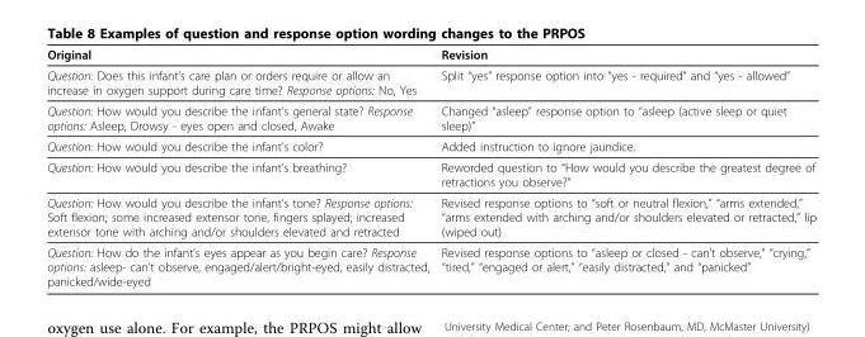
<table><thead><tr><td>Original</td><td>Revision</td></tr></thead><tbody><tr><td>Question: Does this infant’s care plan or orders require or allow an increase in oxygen support during care time? Response options: No, Yes</td><td>Split “yes” response option into “yes - required” and “yes - allowed”</td></tr><tr><td>Question: How would you describe the infant’s general state? Response options: Asleep, Drowsy - eyes open and closed, Awake</td><td>Changed “asleep” response option to “asleep (active sleep or quiet sleep)”</td></tr><tr><td>Question: How would you describe the infant’s color?</td><td>Added instruction to ignore jaundice.</td></tr><tr><td>Question: How would you describe the infant’s breathing?</td><td>Reworded question to “How would you describe the greatest degree of retractions you observe?”</td></tr><tr><td>Question: How would you describe the infant’s tone? Response options: Soft flexion; some increased extensor tone, fingers splayed; increased extensor tone with arching and/or shoulders elevated and retracted</td><td>Revised response options to “soft or neutral flexion,” “arms extended,” “arms extended with arching and/or shoulders elevated or retracted,” lip (wiped out)</td></tr><tr><td>Question: How do the infant’s eyes appear as you begin care? Response options: asleep- can’t observe, engaged/alert/bright-eyed, easily distracted, panicked/wide-eyed</td><td>Revised response options to “asleep or closed - can’t observe,” “crying,” “tired,” “engaged or alert,” “easily distracted,” and “panicked”</td></tr></tbody></table>